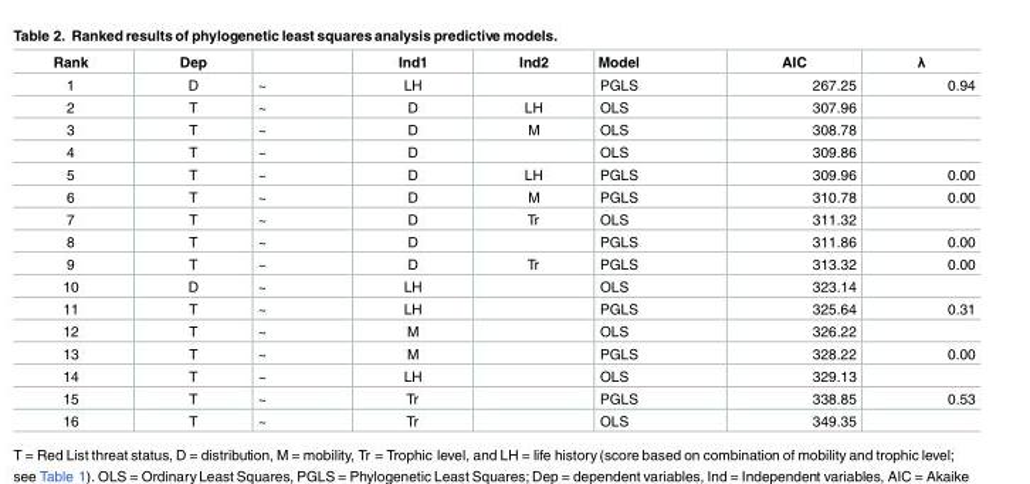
<table><thead><tr><td>Rank</td><td>Dep</td><td></td><td>Ind1</td><td>Ind2</td><td>Model</td><td>AIC</td><td>λ</td></tr></thead><tbody><tr><td>1</td><td>D</td><td>~</td><td>LH</td><td></td><td>PGLS</td><td>267.25</td><td>0.94</td></tr><tr><td>2</td><td>T</td><td>~</td><td>D</td><td>LH</td><td>OLS</td><td>307.96</td><td></td></tr><tr><td>3</td><td>T</td><td>~</td><td>D</td><td>M</td><td>OLS</td><td>308.78</td><td></td></tr><tr><td>4</td><td>T</td><td>~</td><td>D</td><td></td><td>OLS</td><td>309.86</td><td></td></tr><tr><td>5</td><td>T</td><td>~</td><td>D</td><td>LH</td><td>PGLS</td><td>309.96</td><td>0.00</td></tr><tr><td>6</td><td>T</td><td>~</td><td>D</td><td>M</td><td>PGLS</td><td>310.78</td><td>0.00</td></tr><tr><td>7</td><td>T</td><td>~</td><td>D</td><td>Tr</td><td>OLS</td><td>311.32</td><td></td></tr><tr><td>8</td><td>T</td><td>~</td><td>D</td><td></td><td>PGLS</td><td>311.86</td><td>0.00</td></tr><tr><td>9</td><td>T</td><td>~</td><td>D</td><td>Tr</td><td>PGLS</td><td>313.32</td><td>0.00</td></tr><tr><td>10</td><td>D</td><td>~</td><td>LH</td><td></td><td>OLS</td><td>323.14</td><td></td></tr><tr><td>11</td><td>T</td><td>~</td><td>LH</td><td></td><td>PGLS</td><td>325.64</td><td>0.31</td></tr><tr><td>12</td><td>T</td><td>~</td><td>M</td><td></td><td>OLS</td><td>326.22</td><td></td></tr><tr><td>13</td><td>T</td><td>~</td><td>M</td><td></td><td>PGLS</td><td>328.22</td><td>0.00</td></tr><tr><td>14</td><td>T</td><td>~</td><td>LH</td><td></td><td>OLS</td><td>329.13</td><td></td></tr><tr><td>15</td><td>T</td><td>~</td><td>Tr</td><td></td><td>PGLS</td><td>338.85</td><td>0.53</td></tr><tr><td>16</td><td>T</td><td>~</td><td>Tr</td><td></td><td>OLS</td><td>349.35</td><td></td></tr></tbody></table>